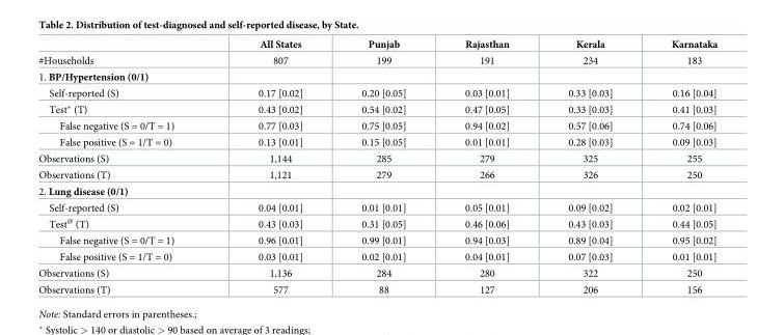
<table><thead><tr><td></td><td>All States</td><td>Punjab</td><td>Rajasthan</td><td>Kerala</td><td>Karnataka</td></tr></thead><tbody><tr><td>#Households</td><td>807</td><td>199</td><td>191</td><td>234</td><td>183</td></tr><tr><td colspan="6">1. BP/Hypertension (0/1)</td></tr><tr><td>Self-reported (S)</td><td>0.17 [0.02]</td><td>0.20 [0.05]</td><td>0.03 [0.01]</td><td>0.33 [0.03]</td><td>0.16 [0.04]</td></tr><tr><td>Test* (T)</td><td>0.43 [0.02]</td><td>0.54 [0.02]</td><td>0.47 [0.05]</td><td>0.33 [0.03]</td><td>0.41 [0.03]</td></tr><tr><td>False negative (S = 0/T = 1)</td><td>0.77 [0.03]</td><td>0.75 [0.05]</td><td>0.94 [0.02]</td><td>0.57 [0.06]</td><td>0.74 [0.06]</td></tr><tr><td>False positive (S = 1/T = 0)</td><td>0.13 [0.01]</td><td>0.15 [0.05]</td><td>0.01 [0.01]</td><td>0.28 [0.03]</td><td>0.09 [0.03]</td></tr><tr><td>Observations (S)</td><td>1,144</td><td>285</td><td>279</td><td>325</td><td>255</td></tr><tr><td>Observations (T)</td><td>1,121</td><td>279</td><td>266</td><td>326</td><td>250</td></tr><tr><td colspan="6">2. Lung disease (0/1)</td></tr><tr><td>Self-reported (S)</td><td>0.04 [0.01]</td><td>0.01 [0.01]</td><td>0.05 [0.01]</td><td>0.09 [0.02]</td><td>0.02 [0.01]</td></tr><tr><td>Test<sup>@</sup> (T)</td><td>0.43 [0.03]</td><td>0.31 [0.05]</td><td>0.46 [0.06]</td><td>0.43 [0.03]</td><td>0.44 [0.05]</td></tr><tr><td>False negative (S = 0/T = 1)</td><td>0.96 [0.01]</td><td>0.99 [0.01]</td><td>0.94 [0.03]</td><td>0.89 [0.04]</td><td>0.95 [0.02]</td></tr><tr><td>False positive (S = 1/T = 0)</td><td>0.03 [0.01]</td><td>0.02 [0.01]</td><td>0.04 [0.01]</td><td>0.07 [0.03]</td><td>0.01 [0.01]</td></tr><tr><td>Observations (S)</td><td>1,136</td><td>284</td><td>280</td><td>322</td><td>250</td></tr><tr><td>Observations (T)</td><td>577</td><td>88</td><td>127</td><td>206</td><td>156</td></tr></tbody></table>